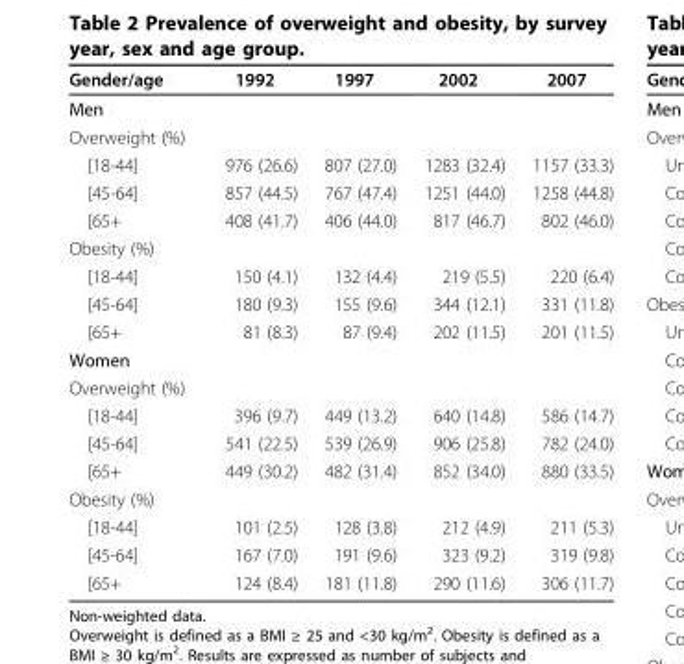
<table><thead><tr><td>Gender/age</td><td>1992</td><td>1997</td><td>2002</td><td>2007</td></tr></thead><tbody><tr><td colspan="5">Men</td></tr><tr><td colspan="5">Overweight (%)</td></tr><tr><td>[18-44]</td><td>976 (26.6)</td><td>807 (27.0)</td><td>1283 (32.4)</td><td>1157 (33.3)</td></tr><tr><td>[45-64]</td><td>857 (44.5)</td><td>767 (47.4)</td><td>1251 (44.0)</td><td>1258 (44.8)</td></tr><tr><td>[65+</td><td>408 (41.7)</td><td>406 (44.0)</td><td>817 (46.7)</td><td>802 (46.0)</td></tr><tr><td colspan="5">Obesity (%)</td></tr><tr><td>[18-44]</td><td>150 (4.1)</td><td>132 (4.4)</td><td>219 (5.5)</td><td>220 (6.4)</td></tr><tr><td>[45-64]</td><td>180 (9.3)</td><td>155 (9.6)</td><td>344 (12.1)</td><td>331 (11.8)</td></tr><tr><td>[65+</td><td>81 (8.3)</td><td>87 (9.4)</td><td>202 (11.5)</td><td>201 (11.5)</td></tr><tr><td colspan="5">Women</td></tr><tr><td colspan="5">Overweight (%)</td></tr><tr><td>[18-44]</td><td>396 (9.7)</td><td>449 (13.2)</td><td>640 (14.8)</td><td>586 (14.7)</td></tr><tr><td>[45-64]</td><td>541 (22.5)</td><td>539 (26.9)</td><td>906 (25.8)</td><td>782 (24.0)</td></tr><tr><td>[65+</td><td>449 (30.2)</td><td>482 (31.4)</td><td>852 (34.0)</td><td>880 (33.5)</td></tr><tr><td colspan="5">Obesity (%)</td></tr><tr><td>[18-44]</td><td>101 (2.5)</td><td>128 (3.8)</td><td>212 (4.9)</td><td>211 (5.3)</td></tr><tr><td>[45-64]</td><td>167 (7.0)</td><td>191 (9.6)</td><td>323 (9.2)</td><td>319 (9.8)</td></tr><tr><td>[65+</td><td>124 (8.4)</td><td>181 (11.8)</td><td>290 (11.6)</td><td>306 (11.7)</td></tr></tbody></table>